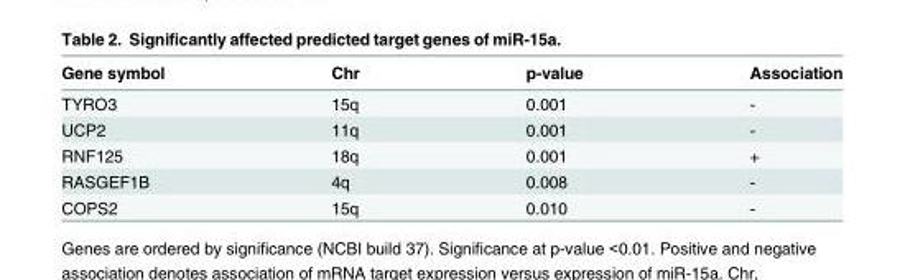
<table><thead><tr><td>Gene symbol</td><td>Chr</td><td>p-value</td><td>Association</td></tr></thead><tbody><tr><td>TYRO3</td><td>15q</td><td>0.001</td><td>-</td></tr><tr><td>UCP2</td><td>11q</td><td>0.001</td><td>-</td></tr><tr><td>RNF125</td><td>18q</td><td>0.001</td><td>+</td></tr><tr><td>RASGEF1B</td><td>4q</td><td>0.008</td><td>-</td></tr><tr><td>COPS2</td><td>15q</td><td>0.010</td><td>-</td></tr></tbody></table>